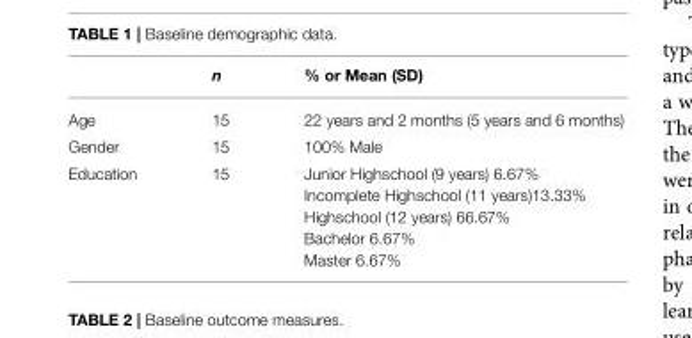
<table><thead><tr><td></td><td>n</td><td>% or Mean (SD)</td></tr></thead><tbody><tr><td>Age</td><td>15</td><td>22 years and 2 months (5 years and 6 months)</td></tr><tr><td>Gender</td><td>15</td><td>100% Male</td></tr><tr><td>Education</td><td>15</td><td>Junior Highschool (9 years) 6.67% Incomplete Highschool (11 years)13.33% Highschool (12 years) 66.67% Bachelor 6.67% Master 6.67%</td></tr></tbody></table>